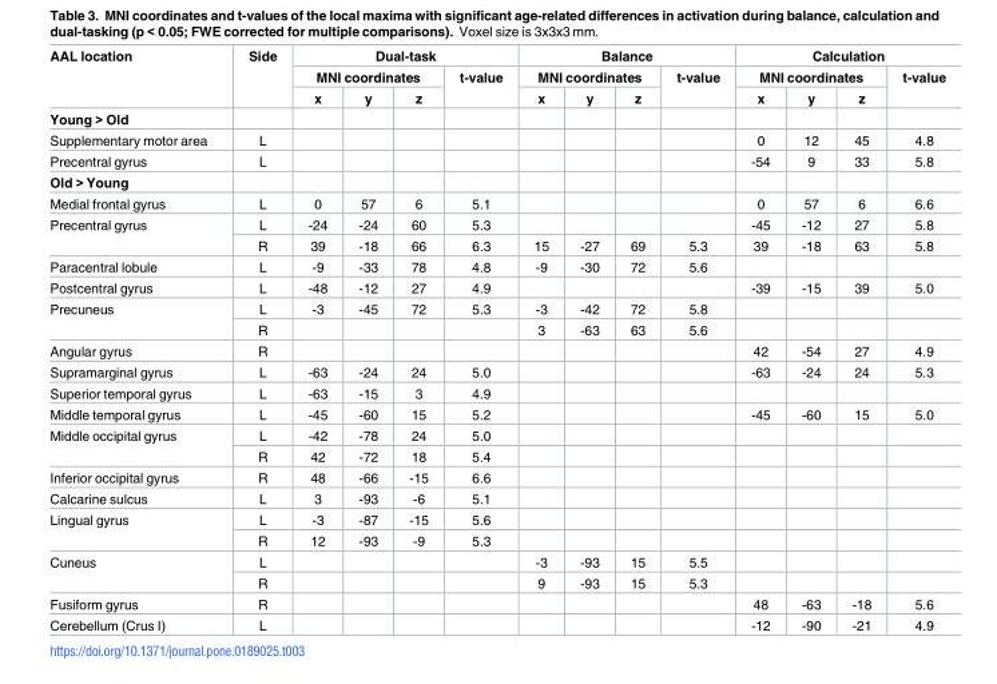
<table><thead><tr><td rowspan="3">AAL location</td><td rowspan="3">Side</td><td colspan="4">Dual-task</td><td colspan="4">Balance</td><td colspan="4">Calculation</td></tr><tr><td colspan="3">MNI coordinates</td><td rowspan="2">t-value</td><td colspan="3">MNI coordinates</td><td rowspan="2">t-value</td><td colspan="3">MNI coordinates</td><td rowspan="2">t-value</td></tr><tr><td>x</td><td>y</td><td>z</td><td>x</td><td>y</td><td>z</td><td>x</td><td>y</td><td>z</td></tr></thead><tbody><tr><td colspan="14">Young &gt; Old</td></tr><tr><td>Supplementary motor area</td><td>L</td><td></td><td></td><td></td><td></td><td></td><td></td><td></td><td></td><td>0</td><td>12</td><td>45</td><td>4.8</td></tr><tr><td>Precentral gyrus</td><td>L</td><td></td><td></td><td></td><td></td><td></td><td></td><td></td><td></td><td>-54</td><td>9</td><td>33</td><td>5.8</td></tr><tr><td colspan="14">Old &gt; Young</td></tr><tr><td>Medial frontal gyrus</td><td>L</td><td>0</td><td>57</td><td>6</td><td>5.1</td><td></td><td></td><td></td><td></td><td>0</td><td>57</td><td>6</td><td>6.6</td></tr><tr><td rowspan="2">Precentral gyrus</td><td>L</td><td>-24</td><td>-24</td><td>60</td><td>5.3</td><td></td><td></td><td></td><td></td><td>-45</td><td>-12</td><td>27</td><td>5.8</td></tr><tr><td>R</td><td>39</td><td>-18</td><td>66</td><td>6.3</td><td>15</td><td>-27</td><td>69</td><td>5.3</td><td>39</td><td>-18</td><td>63</td><td>5.8</td></tr><tr><td>Paracentral lobule</td><td>L</td><td>-9</td><td>-33</td><td>78</td><td>4.8</td><td>-9</td><td>-30</td><td>72</td><td>5.6</td><td></td><td></td><td></td><td></td></tr><tr><td>Postcentral gyrus</td><td>L</td><td>-48</td><td>-12</td><td>27</td><td>4.9</td><td></td><td></td><td></td><td></td><td>-39</td><td>-15</td><td>39</td><td>5.0</td></tr><tr><td rowspan="2">Precuneus</td><td>L</td><td>-3</td><td>-45</td><td>72</td><td>5.3</td><td>-3</td><td>-42</td><td>72</td><td>5.8</td><td></td><td></td><td></td><td></td></tr><tr><td>R</td><td></td><td></td><td></td><td></td><td>3</td><td>-63</td><td>63</td><td>5.6</td><td></td><td></td><td></td><td></td></tr><tr><td>Angular gyrus</td><td>R</td><td></td><td></td><td></td><td></td><td></td><td></td><td></td><td></td><td>42</td><td>-54</td><td>27</td><td>4.9</td></tr><tr><td>Supramarginal gyrus</td><td>L</td><td>-63</td><td>-24</td><td>24</td><td>5.0</td><td></td><td></td><td></td><td></td><td>-63</td><td>-24</td><td>24</td><td>5.3</td></tr><tr><td>Superior temporal gyrus</td><td>L</td><td>-63</td><td>-15</td><td>3</td><td>4.9</td><td></td><td></td><td></td><td></td><td></td><td></td><td></td><td></td></tr><tr><td>Middle temporal gyrus</td><td>L</td><td>-45</td><td>-60</td><td>15</td><td>5.2</td><td></td><td></td><td></td><td></td><td>-45</td><td>-60</td><td>15</td><td>5.0</td></tr><tr><td rowspan="2">Middle occipital gyrus</td><td>L</td><td>-42</td><td>-78</td><td>24</td><td>5.0</td><td></td><td></td><td></td><td></td><td></td><td></td><td></td><td></td></tr><tr><td>R</td><td>42</td><td>-72</td><td>18</td><td>5.4</td><td></td><td></td><td></td><td></td><td></td><td></td><td></td><td></td></tr><tr><td>Inferior occipital gyrus</td><td>R</td><td>48</td><td>-66</td><td>-15</td><td>6.6</td><td></td><td></td><td></td><td></td><td></td><td></td><td></td><td></td></tr><tr><td>Calcarine sulcus</td><td>L</td><td>3</td><td>-93</td><td>-6</td><td>5.1</td><td></td><td></td><td></td><td></td><td></td><td></td><td></td><td></td></tr><tr><td rowspan="2">Lingual gyrus</td><td>L</td><td>-3</td><td>-87</td><td>-15</td><td>5.6</td><td></td><td></td><td></td><td></td><td></td><td></td><td></td><td></td></tr><tr><td>R</td><td>12</td><td>-93</td><td>-9</td><td>5.3</td><td></td><td></td><td></td><td></td><td></td><td></td><td></td><td></td></tr><tr><td rowspan="2">Cuneus</td><td>L</td><td></td><td></td><td></td><td></td><td>-3</td><td>-93</td><td>15</td><td>5.5</td><td></td><td></td><td></td><td></td></tr><tr><td>R</td><td></td><td></td><td></td><td></td><td>9</td><td>-93</td><td>15</td><td>5.3</td><td></td><td></td><td></td><td></td></tr><tr><td>Fusiform gyrus</td><td>R</td><td></td><td></td><td></td><td></td><td></td><td></td><td></td><td></td><td>48</td><td>-63</td><td>-18</td><td>5.6</td></tr><tr><td>Cerebellum (Crus I)</td><td>L</td><td></td><td></td><td></td><td></td><td></td><td></td><td></td><td></td><td>-12</td><td>-90</td><td>-21</td><td>4.9</td></tr></tbody></table>